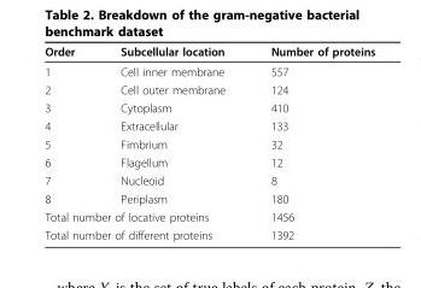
<table><thead><tr><td>Order</td><td>Subcellular location</td><td>Number of proteins</td></tr></thead><tbody><tr><td>1</td><td>Cell inner membrane</td><td>557</td></tr><tr><td>2</td><td>Cell outer membrane</td><td>124</td></tr><tr><td>3</td><td>Cytoplasm</td><td>410</td></tr><tr><td>4</td><td>Extracellular</td><td>133</td></tr><tr><td>5</td><td>Fimbrium</td><td>32</td></tr><tr><td>6</td><td>Flagellum</td><td>12</td></tr><tr><td>7</td><td>Nucleoid</td><td>8</td></tr><tr><td>8</td><td>Periplasm</td><td>180</td></tr><tr><td colspan="2">Total number of locative proteins</td><td>1456</td></tr><tr><td colspan="2">Total number of different proteins</td><td>1392</td></tr></tbody></table>